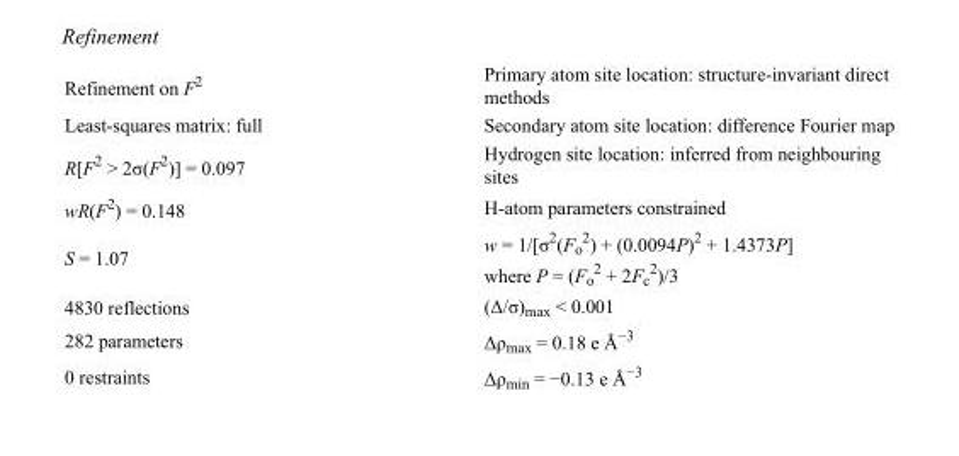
<table><tbody><tr><td>Refinement on F<sup>2</sup></td><td>Primary atom site location: structure-invariant direct methods</td></tr><tr><td>Least-squares matrix: full</td><td>Secondary atom site location: difference Fourier map</td></tr><tr><td>R[F<sup>2</sup> &gt; 2σ(F<sup>2</sup>)] = 0.097</td><td>Hydrogen site location: inferred from neighbouring sites</td></tr><tr><td>wR(F<sup>2</sup>) = 0.148</td><td>H-atom parameters constrained</td></tr><tr><td>S = 1.07</td><td>w = 1/[σ<sup>2</sup>(F<sub>o</sub> <sup>2</sup>) + (0.0094P)<sup>2</sup> + 1.4373P] where P = (F<sub>o</sub> <sup>2</sup> + 2F<sub>c</sub> <sup>2</sup>)/3</td></tr><tr><td>4830 reflections</td><td>(Δ/σ)<sub>max</sub> &lt; 0.001</td></tr><tr><td>282 parameters</td><td>Δρ<sub>max</sub> = 0.18 e Å<sup>−3</sup></td></tr><tr><td>0 restraints</td><td>Δρ<sub>min</sub> = −0.13 e Å<sup>−3</sup></td></tr></tbody></table>